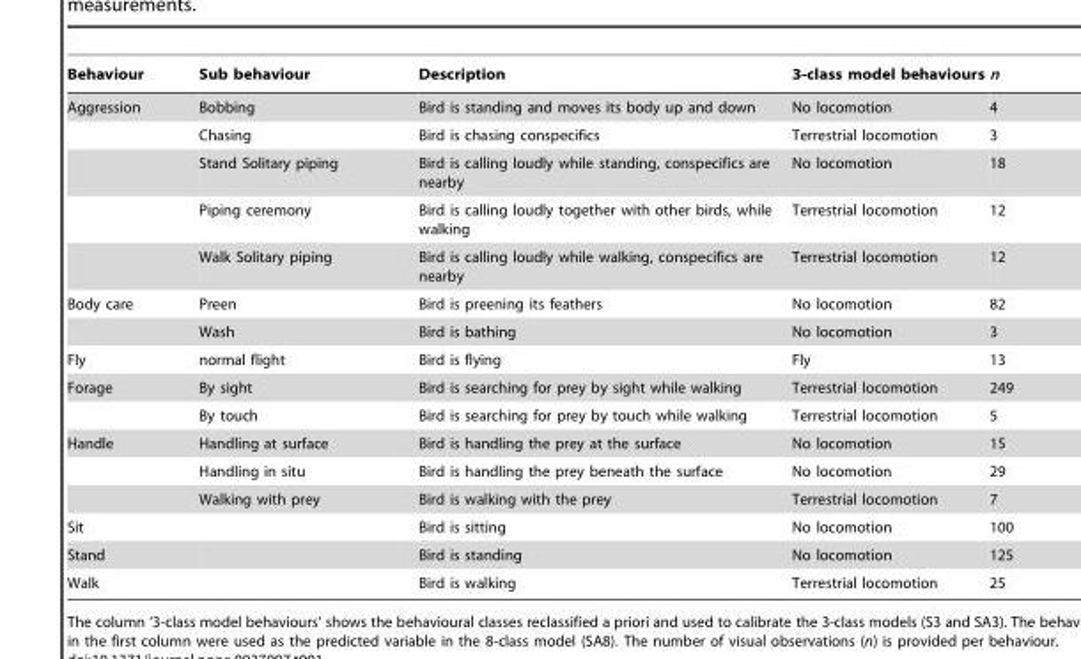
<table><thead><tr><td>Behaviour</td><td>Sub behaviour</td><td>Description</td><td>3-class model behaviours</td><td>n</td></tr></thead><tbody><tr><td rowspan="5">Aggression</td><td>Bobbing</td><td>Bird is standing and moves its body up and down</td><td>No locomotion</td><td>4</td></tr><tr><td>Chasing</td><td>Bird is chasing conspecifics</td><td>Terrestrial locomotion</td><td>3</td></tr><tr><td>Stand Solitary piping</td><td>Bird is calling loudly while standing, conspecifics are nearby</td><td>No locomotion</td><td>18</td></tr><tr><td>Piping ceremony</td><td>Bird is calling loudly together with other birds, while walking</td><td>Terrestrial locomotion</td><td>12</td></tr><tr><td>Walk Solitary piping</td><td>Bird is calling loudly while walking, conspecifics are nearby</td><td>Terrestrial locomotion</td><td>12</td></tr><tr><td rowspan="2">Body care</td><td>Preen</td><td>Bird is preening its feathers</td><td>No locomotion</td><td>82</td></tr><tr><td>Wash</td><td>Bird is bathing</td><td>No locomotion</td><td>3</td></tr><tr><td>Fly</td><td>normal flight</td><td>Bird is flying</td><td>Fly</td><td>13</td></tr><tr><td rowspan="2">Forage</td><td>By sight</td><td>Bird is searching for prey by sight while walking</td><td>Terrestrial locomotion</td><td>249</td></tr><tr><td>By touch</td><td>Bird is searching for prey by touch while walking</td><td>Terrestrial locomotion</td><td>5</td></tr><tr><td rowspan="3">Handle</td><td>Handling at surface</td><td>Bird is handling the prey at the surface</td><td>No locomotion</td><td>15</td></tr><tr><td>Handling in situ</td><td>Bird is handling the prey beneath the surface</td><td>No locomotion</td><td>29</td></tr><tr><td>Walking with prey</td><td>Bird is walking with the prey</td><td>Terrestrial locomotion</td><td>7</td></tr><tr><td>Sit</td><td></td><td>Bird is sitting</td><td>No locomotion</td><td>100</td></tr><tr><td>Stand</td><td></td><td>Bird is standing</td><td>No locomotion</td><td>125</td></tr><tr><td>Walk</td><td></td><td>Bird is walking</td><td>Terrestrial locomotion</td><td>25</td></tr></tbody></table>